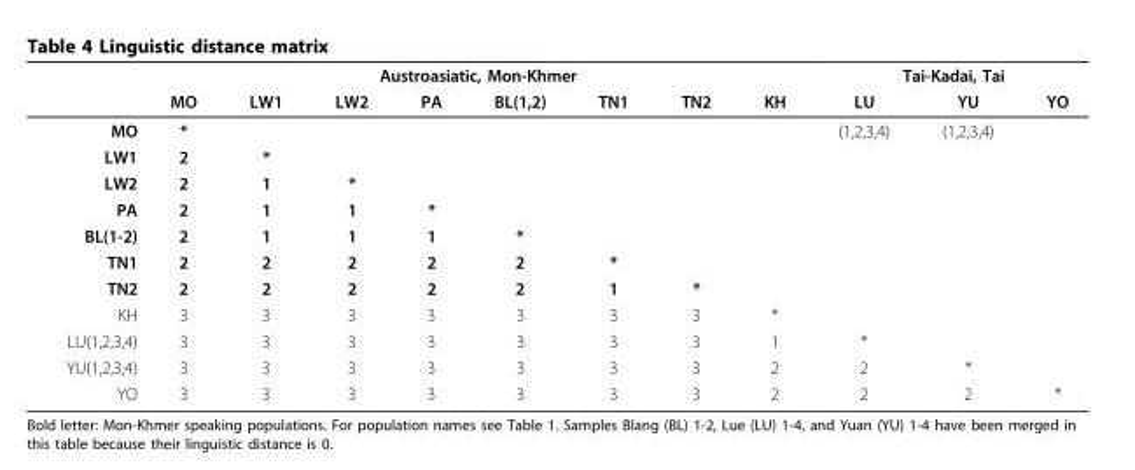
<table><thead><tr><td rowspan="2"></td><td colspan="8">Austroasiatic, Mon-Khmer</td><td colspan="3">Tai-Kadai, Tai</td></tr><tr><td>MO</td><td>LW1</td><td>LW2</td><td>PA</td><td>BL(1,2)</td><td>TN1</td><td>TN2</td><td>KH</td><td>LU</td><td>YU</td><td>YO</td></tr></thead><tbody><tr><td>MO</td><td>*</td><td></td><td></td><td></td><td></td><td></td><td></td><td></td><td>(1,2,3,4)</td><td>(1,2,3,4)</td><td></td></tr><tr><td>LW1</td><td>2</td><td>*</td><td></td><td></td><td></td><td></td><td></td><td></td><td></td><td></td><td></td></tr><tr><td>LW2</td><td>2</td><td>1</td><td>*</td><td></td><td></td><td></td><td></td><td></td><td></td><td></td><td></td></tr><tr><td>PA</td><td>2</td><td>1</td><td>1</td><td>*</td><td></td><td></td><td></td><td></td><td></td><td></td><td></td></tr><tr><td>BL(1-2)</td><td>2</td><td>1</td><td>1</td><td>1</td><td>*</td><td></td><td></td><td></td><td></td><td></td><td></td></tr><tr><td>TN1</td><td>2</td><td>2</td><td>2</td><td>2</td><td>2</td><td>*</td><td></td><td></td><td></td><td></td><td></td></tr><tr><td>TN2</td><td>2</td><td>2</td><td>2</td><td>2</td><td>2</td><td>1</td><td>*</td><td></td><td></td><td></td><td></td></tr><tr><td>KH</td><td>3</td><td>3</td><td>3</td><td>3</td><td>3</td><td>3</td><td>3</td><td>*</td><td></td><td></td><td></td></tr><tr><td>LU(1,2,3,4)</td><td>3</td><td>3</td><td>3</td><td>3</td><td>3</td><td>3</td><td>3</td><td>1</td><td>*</td><td></td><td></td></tr><tr><td>YU(1,2,3,4)</td><td>3</td><td>3</td><td>3</td><td>3</td><td>3</td><td>3</td><td>3</td><td>2</td><td>2</td><td>*</td><td></td></tr><tr><td>YO</td><td>3</td><td>3</td><td>3</td><td>3</td><td>3</td><td>3</td><td>3</td><td>2</td><td>2</td><td>2</td><td>*</td></tr></tbody></table>